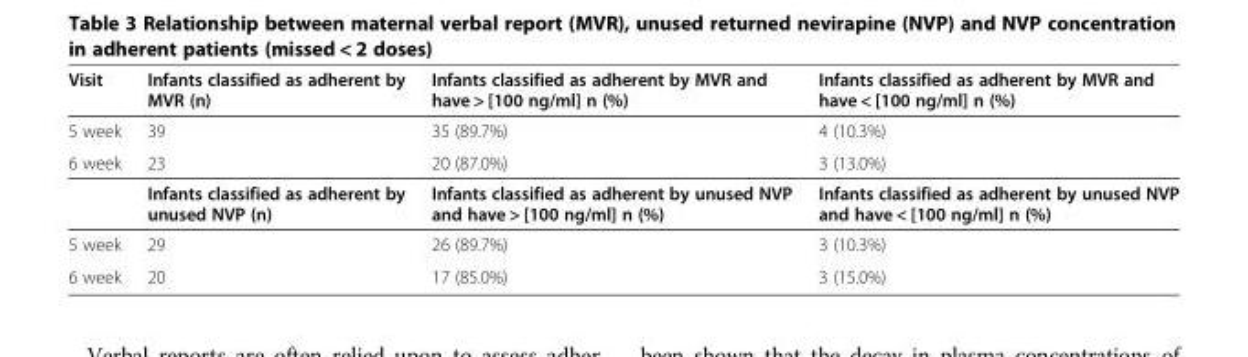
<table><thead><tr><td>Visit</td><td>Infants classified as adherent by MVR (n)</td><td>Infants classified as adherent by MVR and have &gt; [100 ng/ml] n (%)</td><td>Infants classified as adherent by MVR and have &lt; [100 ng/ml] n (%)</td></tr></thead><tbody><tr><td>5 week</td><td>39</td><td>35 (89.7%)</td><td>4 (10.3%)</td></tr><tr><td rowspan="2">6 week</td><td>23</td><td>20 (87.0%)</td><td>3 (13.0%)</td></tr><tr><td>Infants classified as adherent by unused NVP (n)</td><td>Infants classified as adherent by unused NVP and have &gt; [100 ng/ml] n (%)</td><td>Infants classified as adherent by unused NVP and have &lt; [100 ng/ml] n (%)</td></tr><tr><td>5 week</td><td>29</td><td>26 (89.7%)</td><td>3 (10.3%)</td></tr><tr><td>6 week</td><td>20</td><td>17 (85.0%)</td><td>3 (15.0%)</td></tr></tbody></table>